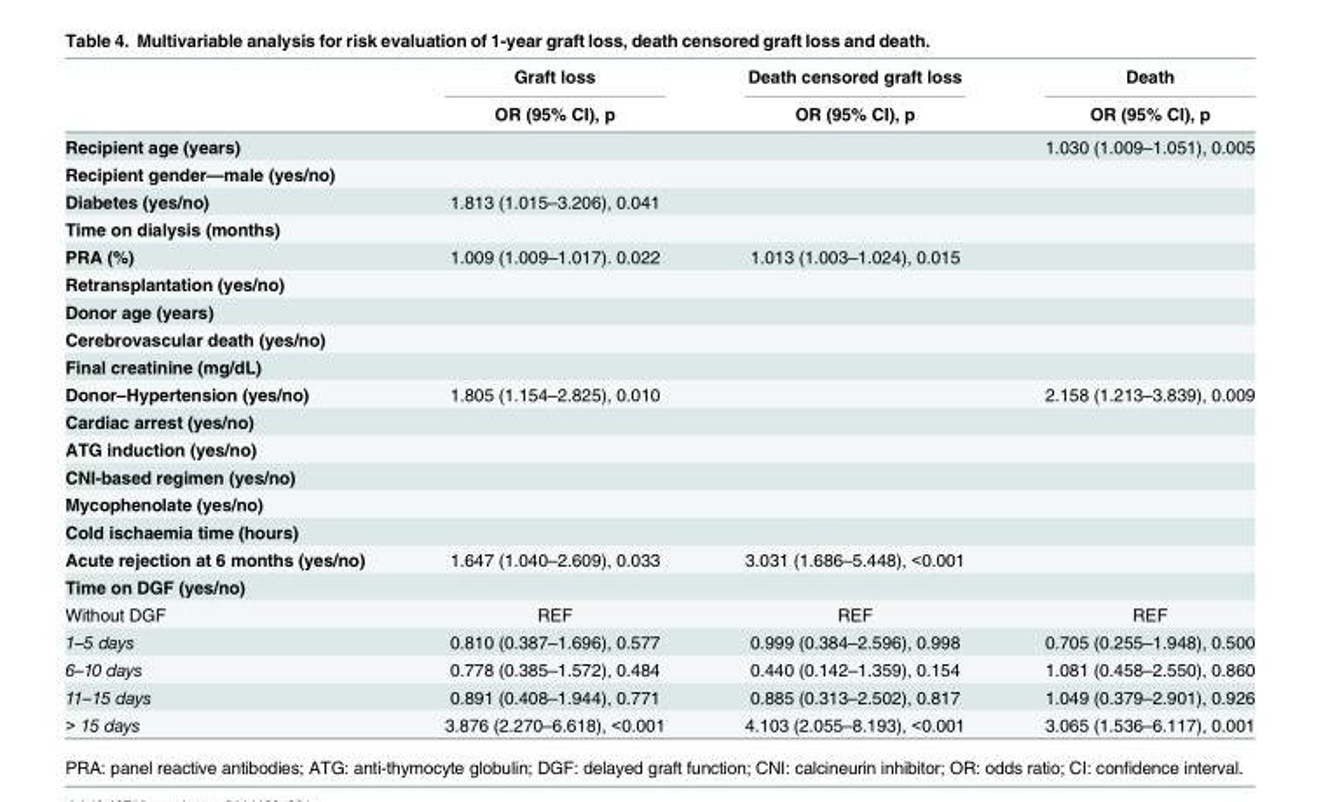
<table><thead><tr><td rowspan="2"></td><td rowspan="2">Graft loss OR (95% CI), p</td><td rowspan="2">Death censored graft loss OR (95% CI), p</td><td rowspan="2">Death OR (95% CI), p</td></tr><tr></tr></thead><tbody><tr><td>Recipient age (years)</td><td></td><td></td><td>1.030 (1.009–1.051), 0.005</td></tr><tr><td colspan="4">Recipient gender—male (yes/no)</td></tr><tr><td>Diabetes (yes/no)</td><td>1.813 (1.015–3.206), 0.041</td><td></td><td></td></tr><tr><td colspan="4">Time on dialysis (months)</td></tr><tr><td>PRA (%)</td><td>1.009 (1.009–1.017). 0.022</td><td>1.013 (1.003–1.024), 0.015</td><td></td></tr><tr><td colspan="4">Retransplantation (yes/no)</td></tr><tr><td colspan="4">Donor age (years)</td></tr><tr><td colspan="4">Cerebrovascular death (yes/no)</td></tr><tr><td colspan="4">Final creatinine (mg/dL)</td></tr><tr><td>Donor–Hypertension (yes/no)</td><td>1.805 (1.154–2.825), 0.010</td><td></td><td>2.158 (1.213–3.839), 0.009</td></tr><tr><td colspan="4">Cardiac arrest (yes/no)</td></tr><tr><td colspan="4">ATG induction (yes/no)</td></tr><tr><td colspan="4">CNI-based regimen (yes/no)</td></tr><tr><td colspan="4">Mycophenolate (yes/no)</td></tr><tr><td colspan="4">Cold ischaemia time (hours)</td></tr><tr><td>Acute rejection at 6 months (yes/no)</td><td>1.647 (1.040–2.609), 0.033</td><td>3.031 (1.686–5.448), &lt;0.001</td><td></td></tr><tr><td colspan="4">Time on DGF (yes/no)</td></tr><tr><td>Without DGF</td><td>REF</td><td>REF</td><td>REF</td></tr><tr><td>1–5 days</td><td>0.810 (0.387–1.696), 0.577</td><td>0.999 (0.384–2.596), 0.998</td><td>0.705 (0.255–1.948), 0.500</td></tr><tr><td>6–10 days</td><td>0.778 (0.385–1.572), 0.484</td><td>0.440 (0.142–1.359), 0.154</td><td>1.081 (0.458–2.550), 0.860</td></tr><tr><td>11–15 days</td><td>0.891 (0.408–1.944), 0.771</td><td>0.885 (0.313–2.502), 0.817</td><td>1.049 (0.379–2.901), 0.926</td></tr><tr><td>&gt; 15 days</td><td>3.876 (2.270–6.618), &lt;0.001</td><td>4.103 (2.055–8.193), &lt;0.001</td><td>3.065 (1.536–6.117), 0.001</td></tr></tbody></table>